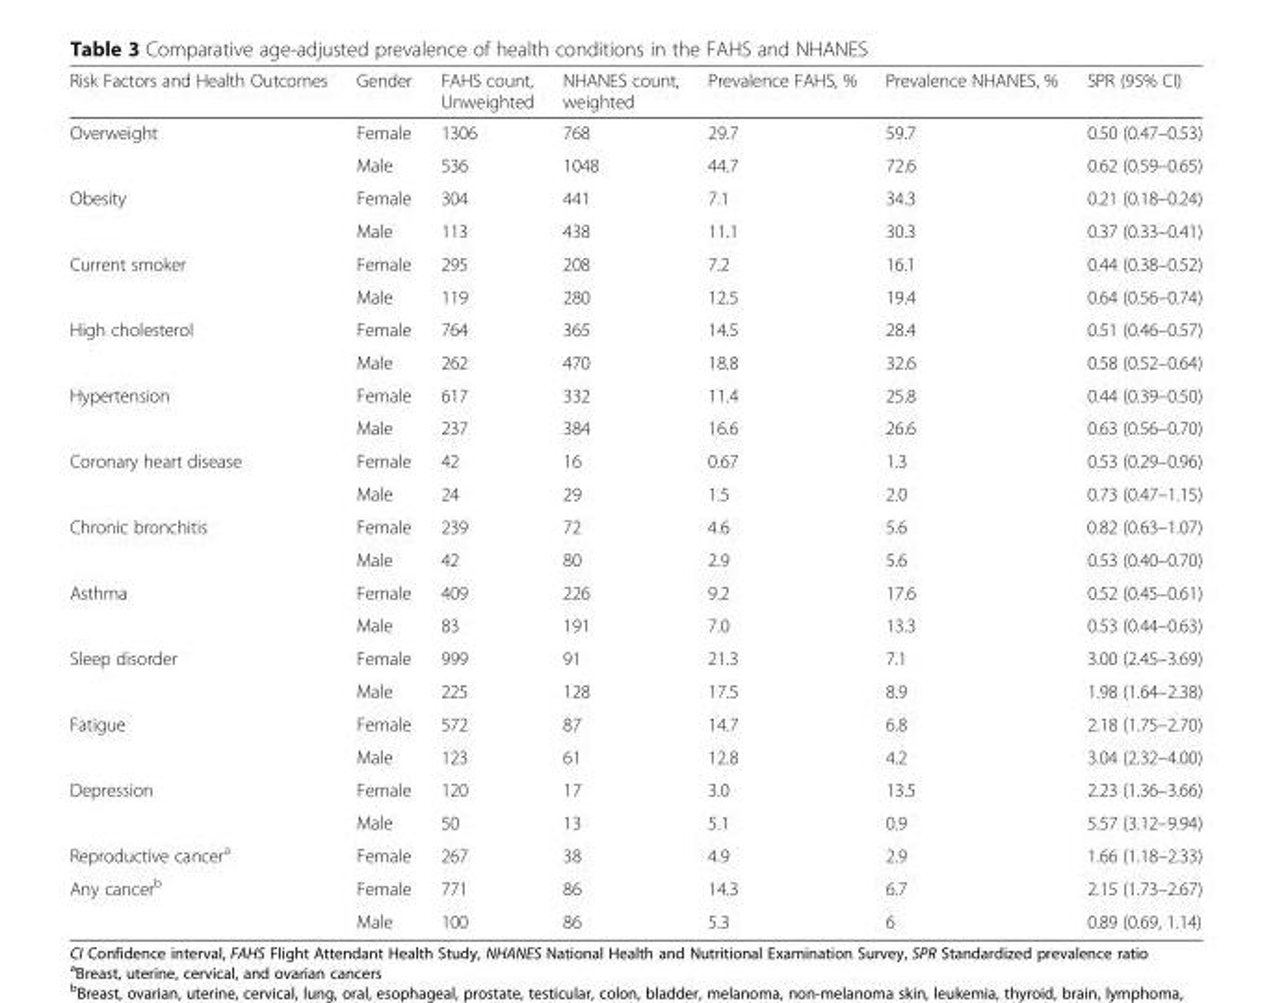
<table><thead><tr><td>Risk Factors and Health Outcomes</td><td>Gender</td><td>FAHS count, Unweighted</td><td>NHANES count, weighted</td><td>Prevalence FAHS, %</td><td>Prevalence NHANES, %</td><td>SPR (95% CI)</td></tr></thead><tbody><tr><td rowspan="2">Overweight</td><td>Female</td><td>1306</td><td>768</td><td>29.7</td><td>59.7</td><td>0.50 (0.47–0.53)</td></tr><tr><td>Male</td><td>536</td><td>1048</td><td>44.7</td><td>72.6</td><td>0.62 (0.59–0.65)</td></tr><tr><td rowspan="2">Obesity</td><td>Female</td><td>304</td><td>441</td><td>7.1</td><td>34.3</td><td>0.21 (0.18–0.24)</td></tr><tr><td>Male</td><td>113</td><td>438</td><td>11.1</td><td>30.3</td><td>0.37 (0.33–0.41)</td></tr><tr><td rowspan="2">Current smoker</td><td>Female</td><td>295</td><td>208</td><td>7.2</td><td>16.1</td><td>0.44 (0.38–0.52)</td></tr><tr><td>Male</td><td>119</td><td>280</td><td>12.5</td><td>19.4</td><td>0.64 (0.56–0.74)</td></tr><tr><td rowspan="2">High cholesterol</td><td>Female</td><td>764</td><td>365</td><td>14.5</td><td>28.4</td><td>0.51 (0.46–0.57)</td></tr><tr><td>Male</td><td>262</td><td>470</td><td>18.8</td><td>32.6</td><td>0.58 (0.52–0.64)</td></tr><tr><td rowspan="2">Hypertension</td><td>Female</td><td>617</td><td>332</td><td>11.4</td><td>25.8</td><td>0.44 (0.39–0.50)</td></tr><tr><td>Male</td><td>237</td><td>384</td><td>16.6</td><td>26.6</td><td>0.63 (0.56–0.70)</td></tr><tr><td rowspan="2">Coronary heart disease</td><td>Female</td><td>42</td><td>16</td><td>0.67</td><td>1.3</td><td>0.53 (0.29–0.96)</td></tr><tr><td>Male</td><td>24</td><td>29</td><td>1.5</td><td>2.0</td><td>0.73 (0.47–1.15)</td></tr><tr><td rowspan="2">Chronic bronchitis</td><td>Female</td><td>239</td><td>72</td><td>4.6</td><td>5.6</td><td>0.82 (0.63–1.07)</td></tr><tr><td>Male</td><td>42</td><td>80</td><td>2.9</td><td>5.6</td><td>0.53 (0.40–0.70)</td></tr><tr><td rowspan="2">Asthma</td><td>Female</td><td>409</td><td>226</td><td>9.2</td><td>17.6</td><td>0.52 (0.45–0.61)</td></tr><tr><td>Male</td><td>83</td><td>191</td><td>7.0</td><td>13.3</td><td>0.53 (0.44–0.63)</td></tr><tr><td rowspan="2">Sleep disorder</td><td>Female</td><td>999</td><td>91</td><td>21.3</td><td>7.1</td><td>3.00 (2.45–3.69)</td></tr><tr><td>Male</td><td>225</td><td>128</td><td>17.5</td><td>8.9</td><td>1.98 (1.64–2.38)</td></tr><tr><td rowspan="2">Fatigue</td><td>Female</td><td>572</td><td>87</td><td>14.7</td><td>6.8</td><td>2.18 (1.75–2.70)</td></tr><tr><td>Male</td><td>123</td><td>61</td><td>12.8</td><td>4.2</td><td>3.04 (2.32–4.00)</td></tr><tr><td rowspan="2">Depression</td><td>Female</td><td>120</td><td>17</td><td>3.0</td><td>13.5</td><td>2.23 (1.36–3.66)</td></tr><tr><td>Male</td><td>50</td><td>13</td><td>5.1</td><td>0.9</td><td>5.57 (3.12–9.94)</td></tr><tr><td>Reproductive cancer<sup>a</sup></td><td>Female</td><td>267</td><td>38</td><td>4.9</td><td>2.9</td><td>1.66 (1.18–2.33)</td></tr><tr><td rowspan="2">Any cancer<sup>b</sup></td><td>Female</td><td>771</td><td>86</td><td>14.3</td><td>6.7</td><td>2.15 (1.73–2.67)</td></tr><tr><td>Male</td><td>100</td><td>86</td><td>5.3</td><td>6</td><td>0.89 (0.69, 1.14)</td></tr></tbody></table>